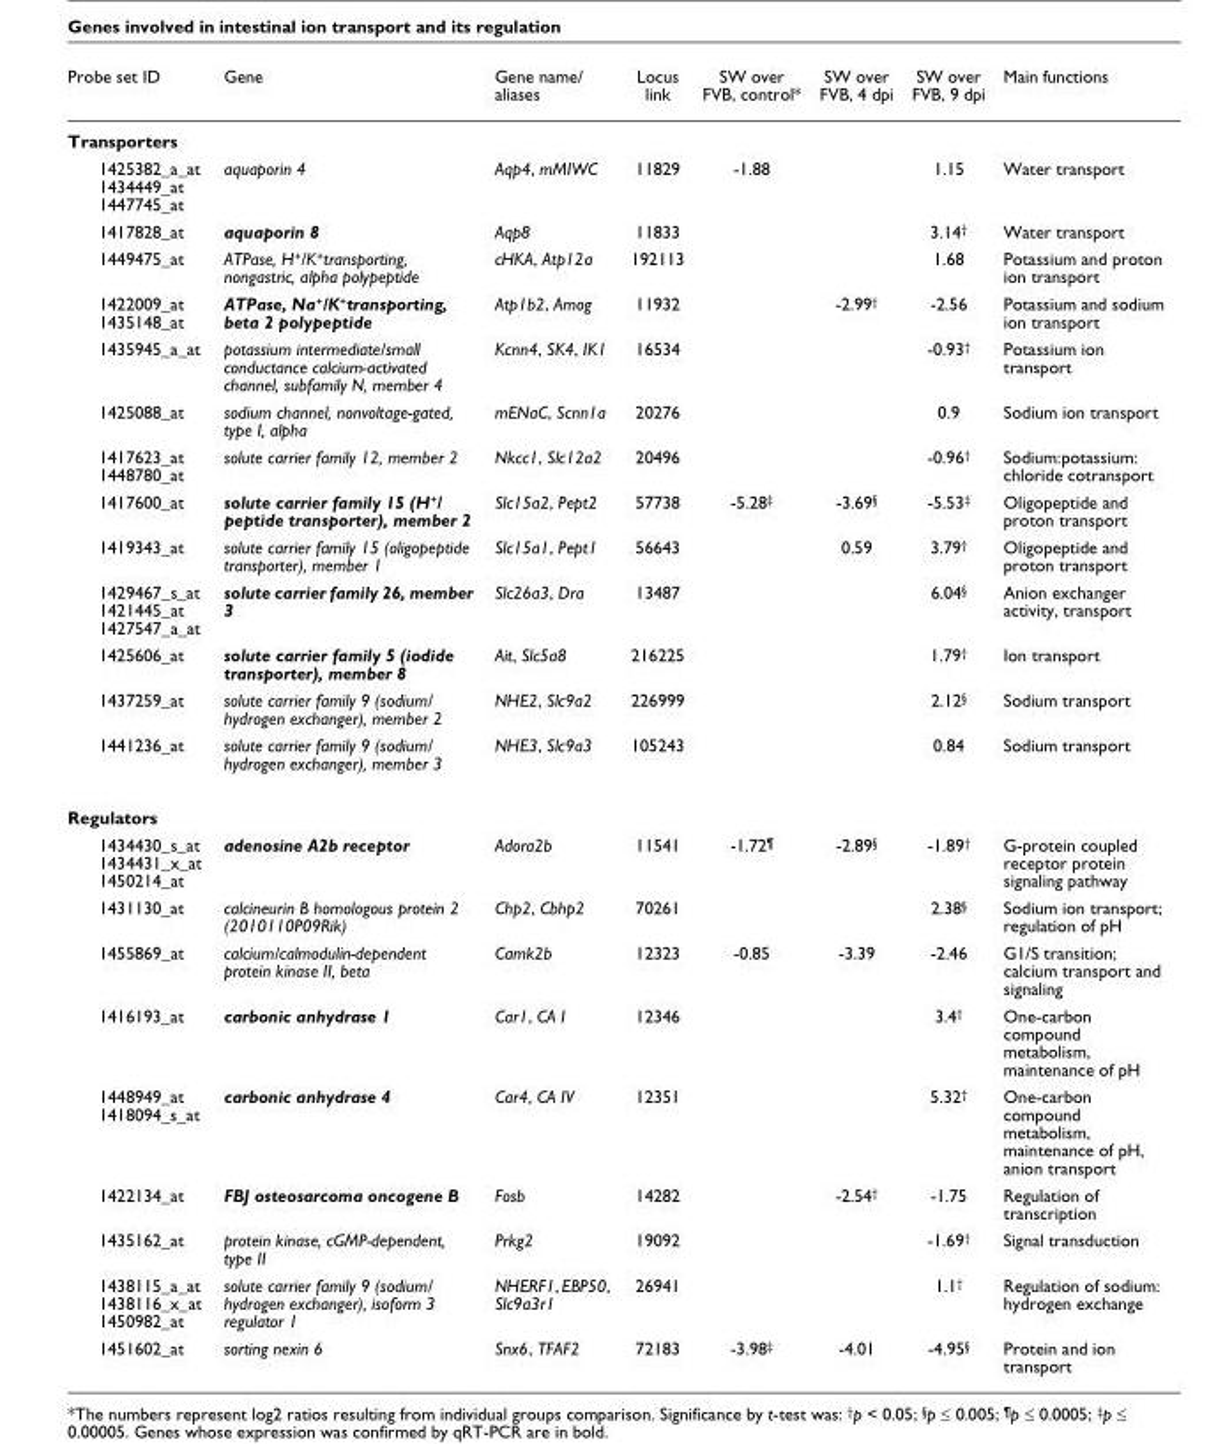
<table><thead><tr><td>Probe set ID</td><td>Gene</td><td>Gene name/ aliases</td><td>Locus link</td><td>SW over FVB, control*</td><td>SW over FVB, 4 dpi</td><td>SW over FVB, 9 dpi</td><td>Main functions</td></tr></thead><tbody><tr><td colspan="8">Transporters</td></tr><tr><td>1425382_a_at 1434449_at 1447745_at</td><td>aquaporin 4</td><td>Aqp4, mMIWC</td><td>11829</td><td>-1.88</td><td></td><td>1.15</td><td>Water transport</td></tr><tr><td>1417828_at</td><td>aquaporin 8</td><td>Aqp8</td><td>11833</td><td></td><td></td><td>3.14<sup>†</sup></td><td>Water transport</td></tr><tr><td>1449475_at</td><td>ATPase, H<sup>+</sup>/K<sup>+</sup>transporting, nongastric, alpha polypeptide</td><td>cHKA, Atp12a</td><td>192113</td><td></td><td></td><td>1.68</td><td>Potassium and proton ion transport</td></tr><tr><td>1422009_at 1435148_at</td><td>ATPase, Na<sup>+</sup>/K<sup>+</sup>transporting, beta 2 polypeptide</td><td>Atp1b2, Amog</td><td>11932</td><td></td><td>-2.99<sup>†</sup></td><td>-2.56</td><td>Potassium and sodium ion transport</td></tr><tr><td>1435945_a_at</td><td>potassium intermediate/small conductance calcium-activated channel, subfamily N, member 4</td><td>Kcnn4, SK4, IK1</td><td>16534</td><td></td><td></td><td>-0.93<sup>†</sup></td><td>Potassium ion transport</td></tr><tr><td>1425088_at</td><td>sodium channel, nonvoltage-gated, type I, alpha</td><td>mENaC, Scnn1a</td><td>20276</td><td></td><td></td><td>0.9</td><td>Sodium ion transport</td></tr><tr><td>1417623_at 1448780_at</td><td>solute carrier family 12, member 2</td><td>Nkcc1, Slc12a2</td><td>20496</td><td></td><td></td><td>-0.96<sup>†</sup></td><td>Sodium:potassium: chloride cotransport</td></tr><tr><td>1417600_at</td><td>solute carrier family 15 (H<sup>+</sup>/ peptide transporter), member 2</td><td>Slc15a2, Pept2</td><td>57738</td><td>-5.28<sup>‡</sup></td><td>-3.69<sup>§</sup></td><td>-5.53<sup>‡</sup></td><td>Oligopeptide and proton transport</td></tr><tr><td>1419343_at</td><td>solute carrier family 15 (oligopeptide transporter), member 1</td><td>Slc15a1, Pept1</td><td>56643</td><td></td><td>0.59</td><td>3.79<sup>†</sup></td><td>Oligopeptide and proton transport</td></tr><tr><td>1429467_s_at 1421445_at 1427547_a_at</td><td>solute carrier family 26, member 3</td><td>Slc26a3, Dra</td><td>13487</td><td></td><td></td><td>6.04<sup>§</sup></td><td>Anion exchanger activity, transport</td></tr><tr><td>1425606_at</td><td>solute carrier family 5 (iodide transporter), member 8</td><td>Ait, Slc5a8</td><td>216225</td><td></td><td></td><td>1.79<sup>†</sup></td><td>Ion transport</td></tr><tr><td>1437259_at</td><td>solute carrier family 9 (sodium/ hydrogen exchanger), member 2</td><td>NHE2, Slc9a2</td><td>226999</td><td></td><td></td><td>2.12<sup>§</sup></td><td>Sodium transport</td></tr><tr><td>1441236_at</td><td>solute carrier family 9 (sodium/ hydrogen exchanger), member 3</td><td>NHE3, Slc9a3</td><td>105243</td><td></td><td></td><td>0.84</td><td>Sodium transport</td></tr><tr><td colspan="8">Regulators</td></tr><tr><td>1434430_s_at 1434431_x_at 1450214_at</td><td>adenosine A2b receptor</td><td>Adora2b</td><td>11541</td><td>-1.72<sup>¶</sup></td><td>-2.89<sup>§</sup></td><td>-1.89<sup>†</sup></td><td>G-protein coupled receptor protein signaling pathway</td></tr><tr><td>1431130_at</td><td>calcineurin B homologous protein 2 (2010110P09Rik)</td><td>Chp2, Cbhp2</td><td>70261</td><td></td><td></td><td>2.38<sup>§</sup></td><td>Sodium ion transport; regulation of pH</td></tr><tr><td>1455869_at</td><td>calcium/calmodulin-dependent protein kinase II, beta</td><td>Camk2b</td><td>12323</td><td>-0.85</td><td>-3.39</td><td>-2.46</td><td>G1/S transition; calcium transport and signaling</td></tr><tr><td>1416193_at</td><td>carbonic anhydrase 1</td><td>Car1, CA I</td><td>12346</td><td></td><td></td><td>3.4<sup>†</sup></td><td>One-carbon compound metabolism, maintenance of pH</td></tr><tr><td>1448949_at 1418094_s_at</td><td>carbonic anhydrase 4</td><td>Car4, CA IV</td><td>12351</td><td></td><td></td><td>5.32<sup>†</sup></td><td>One-carbon compound metabolism, maintenance of pH, anion transport</td></tr><tr><td>1422134_at</td><td>FBJ osteosarcoma oncogene B</td><td>Fosb</td><td>14282</td><td></td><td>-2.54<sup>†</sup></td><td>-1.75</td><td>Regulation of transcription</td></tr><tr><td>1435162_at</td><td>protein kinase, cGMP-dependent, type II</td><td>Prkg2</td><td>19092</td><td></td><td></td><td>-1.69<sup>†</sup></td><td>Signal transduction</td></tr><tr><td>1438115_a_at 1438116_x_at 1450982_at</td><td>solute carrier family 9 (sodium/ hydrogen exchanger), isoform 3 regulator 1</td><td>NHERF1, EBP50, Slc9a3r1</td><td>26941</td><td></td><td></td><td>1.1<sup>†</sup></td><td>Regulation of sodium: hydrogen exchange</td></tr><tr><td>1451602_at</td><td>sorting nexin 6</td><td>Snx6, TFAF2</td><td>72183</td><td>-3.98<sup>‡</sup></td><td>-4.01</td><td>-4.95<sup>§</sup></td><td>Protein and ion transport</td></tr></tbody></table>